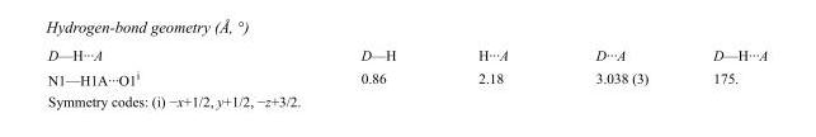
<table><tbody><tr><td>D—H···A</td><td>D—H</td><td>H···A</td><td>D···A</td><td>D—H···A</td></tr><tr><td>N1—H1A···O1<sup>i</sup></td><td>0.86</td><td>2.18</td><td>3.038 (3)</td><td>175.</td></tr></tbody></table>